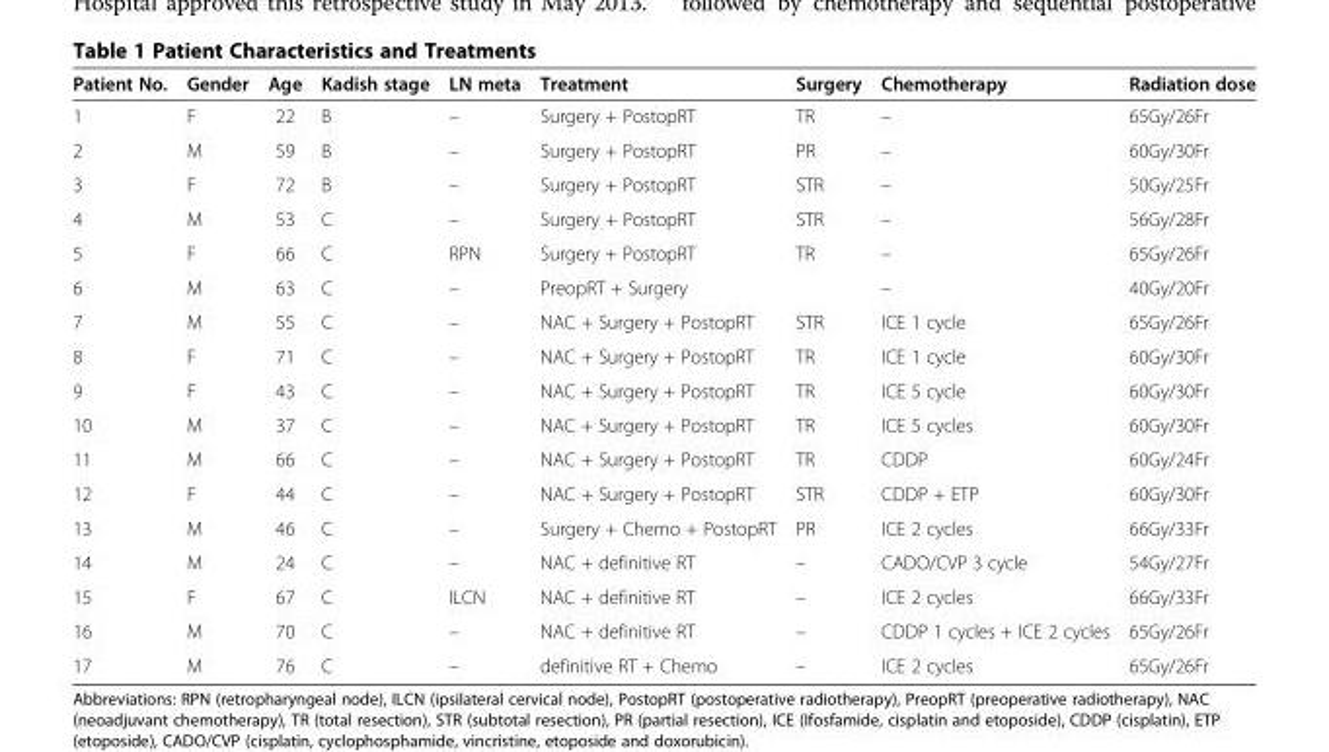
<table><thead><tr><td>Patient No.</td><td>Gender</td><td>Age</td><td>Kadish stage</td><td>LN meta</td><td>Treatment</td><td>Surgery</td><td>Chemotherapy</td><td>Radiation dose</td></tr></thead><tbody><tr><td>1</td><td>F</td><td>22</td><td>B</td><td>–</td><td>Surgery + PostopRT</td><td>TR</td><td>–</td><td>65Gy/26Fr</td></tr><tr><td>2</td><td>M</td><td>59</td><td>B</td><td>–</td><td>Surgery + PostopRT</td><td>PR</td><td>–</td><td>60Gy/30Fr</td></tr><tr><td>3</td><td>F</td><td>72</td><td>B</td><td>–</td><td>Surgery + PostopRT</td><td>STR</td><td>–</td><td>50Gy/25Fr</td></tr><tr><td>4</td><td>M</td><td>53</td><td>C</td><td>–</td><td>Surgery + PostopRT</td><td>STR</td><td>–</td><td>56Gy/28Fr</td></tr><tr><td>5</td><td>F</td><td>66</td><td>C</td><td>RPN</td><td>Surgery + PostopRT</td><td>TR</td><td>–</td><td>65Gy/26Fr</td></tr><tr><td>6</td><td>M</td><td>63</td><td>C</td><td>–</td><td>PreopRT + Surgery</td><td></td><td>–</td><td>40Gy/20Fr</td></tr><tr><td>7</td><td>M</td><td>55</td><td>C</td><td>–</td><td>NAC + Surgery + PostopRT</td><td>STR</td><td>ICE 1 cycle</td><td>65Gy/26Fr</td></tr><tr><td>8</td><td>F</td><td>71</td><td>C</td><td>–</td><td>NAC + Surgery + PostopRT</td><td>TR</td><td>ICE 1 cycle</td><td>60Gy/30Fr</td></tr><tr><td>9</td><td>F</td><td>43</td><td>C</td><td>–</td><td>NAC + Surgery + PostopRT</td><td>TR</td><td>ICE 5 cycle</td><td>60Gy/30Fr</td></tr><tr><td>10</td><td>M</td><td>37</td><td>C</td><td>–</td><td>NAC + Surgery + PostopRT</td><td>TR</td><td>ICE 5 cycles</td><td>60Gy/30Fr</td></tr><tr><td>11</td><td>M</td><td>66</td><td>C</td><td>–</td><td>NAC + Surgery + PostopRT</td><td>TR</td><td>CDDP</td><td>60Gy/24Fr</td></tr><tr><td>12</td><td>F</td><td>44</td><td>C</td><td>–</td><td>NAC + Surgery + PostopRT</td><td>STR</td><td>CDDP + ETP</td><td>60Gy/30Fr</td></tr><tr><td>13</td><td>M</td><td>46</td><td>C</td><td>–</td><td>Surgery + Chemo + PostopRT</td><td>PR</td><td>ICE 2 cycles</td><td>66Gy/33Fr</td></tr><tr><td>14</td><td>M</td><td>24</td><td>C</td><td>–</td><td>NAC + definitive RT</td><td>–</td><td>CADO/CVP 3 cycle</td><td>54Gy/27Fr</td></tr><tr><td>15</td><td>F</td><td>67</td><td>C</td><td>ILCN</td><td>NAC + definitive RT</td><td>–</td><td>ICE 2 cycles</td><td>66Gy/33Fr</td></tr><tr><td>16</td><td>M</td><td>70</td><td>C</td><td>–</td><td>NAC + definitive RT</td><td>–</td><td>CDDP 1 cycles + ICE 2 cycles</td><td>65Gy/26Fr</td></tr><tr><td>17</td><td>M</td><td>76</td><td>C</td><td>–</td><td>definitive RT + Chemo</td><td>–</td><td>ICE 2 cycles</td><td>65Gy/26Fr</td></tr></tbody></table>